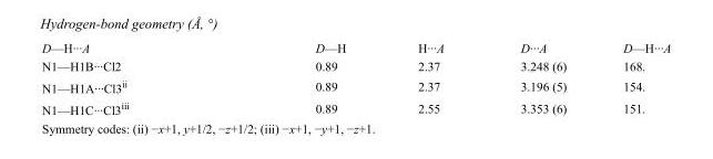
<table><tbody><tr><td>D—H···A</td><td>D—H</td><td>H···A</td><td>D···A</td><td>D—H···A</td></tr><tr><td>N1—H1B···Cl2</td><td>0.89</td><td>2.37</td><td>3.248 (6)</td><td>168.</td></tr><tr><td>N1—H1A···Cl3<sup>ii</sup></td><td>0.89</td><td>2.37</td><td>3.196 (5)</td><td>154.</td></tr><tr><td>N1—H1C···Cl3<sup>iii</sup></td><td>0.89</td><td>2.55</td><td>3.353 (6)</td><td>151.</td></tr></tbody></table>